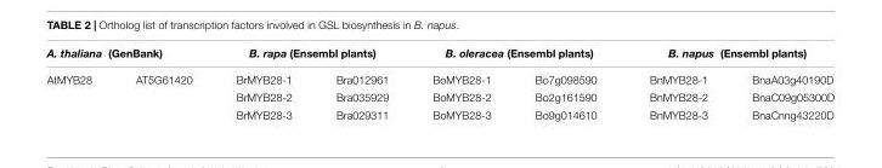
<table><thead><tr><td colspan="2">A. thaliana (GenBank)</td><td colspan="2">B. rapa (Ensembl plants)</td><td colspan="2">B. oleracea (Ensembl plants)</td><td colspan="2">B. napus (Ensembl plants)</td></tr><tr><td>AtMYB28</td><td>AT5G61420</td><td>BrMYB28-1</td><td>Bra012961</td><td>BoMYB28-1</td><td>Bo7g098590</td><td>BnMYB28-1</td><td>BnaA03g40190D</td></tr></thead><tbody><tr><td></td><td></td><td>BrMYB28-2</td><td>Bra035929</td><td>BoMYB28-2</td><td>Bo2g161590</td><td>BnMYB28-2</td><td>BnaC09g05300D</td></tr><tr><td></td><td></td><td>BrMYB28-3</td><td>Bra029311</td><td>BoMYB28-3</td><td>Bo9g014610</td><td>BnMYB28-3</td><td>BnaCnng43220D</td></tr></tbody></table>